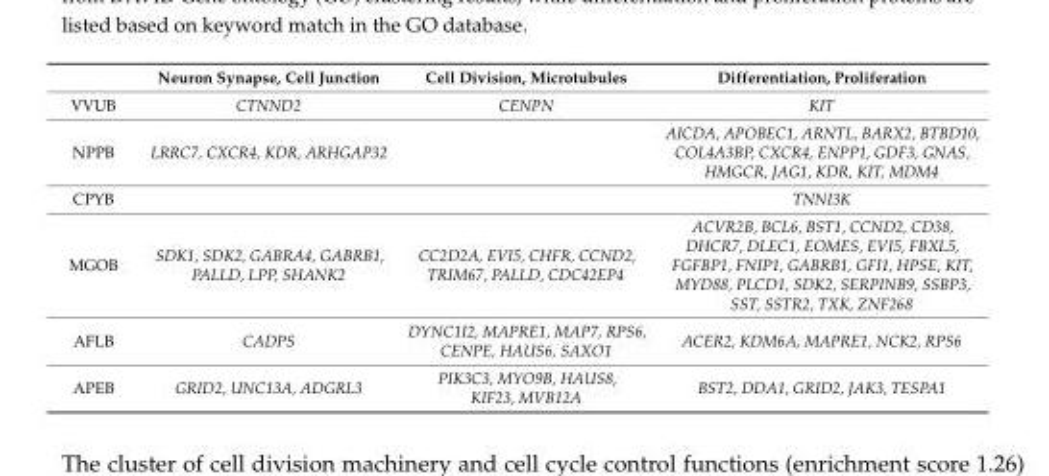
<table><thead><tr><td></td><td>Neuron Synapse, Cell Junction</td><td>Cell Division, Microtubules</td><td>Differentiation, Proliferation</td></tr></thead><tbody><tr><td>VVUB</td><td>CTNND2</td><td>CENPN</td><td>KIT</td></tr><tr><td>NPPB</td><td>LRRC7, CXCR4, KDR, ARHGAP32</td><td></td><td>AICDA, APOBEC1, ARNTL, BARX2, BTBD10, COL4A3BP, CXCR4, ENPP1, GDF3, GNAS, HMGCR, JAG1, KDR, KIT, MDM4</td></tr><tr><td>CPYB</td><td></td><td></td><td>TNNI3K</td></tr><tr><td>MGOB</td><td>SDK1, SDK2, GABRA4, GABRB1, PALLD, LPP, SHANK2</td><td>CC2D2A, EVI5, CHFR, CCND2, TRIM67, PALLD, CDC42EP4</td><td>ACVR2B, BCL6, BST1, CCND2, CD38, DHCR7, DLEC1, EOMES, EVI5, FBXL5, FGFBP1, FNIP1, GABRB1, GFI1, HPSE, KIT, MYD88, PLCD1, SDK2, SERPINB9, SSBP3, SST, SSTR2, TXK, ZNF268</td></tr><tr><td>AFLB</td><td>CADPS</td><td>DYNC1I2, MAPRE1, MAP7, RPS6, CENPE, HAUS6, SAXO1</td><td>ACER2, KDM6A, MAPRE1, NCK2, RPS6</td></tr><tr><td>APEB</td><td>GRID2, UNC13A, ADGRL3</td><td>PIK3C3, MYO9B, HAUS8, KIF23, MVB12A</td><td>BST2, DDA1, GRID2, JAK3, TESPA1</td></tr></tbody></table>